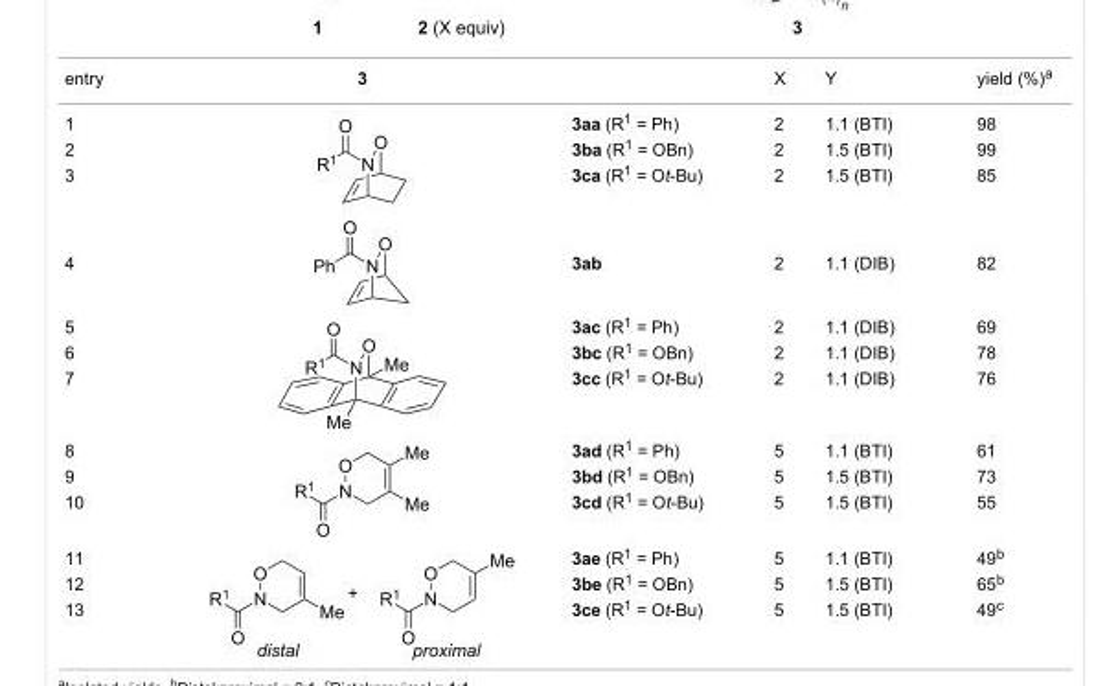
<table><tbody><tr><td>entry</td><td>3</td><td></td><td>X</td><td>Y</td><td>yield (%)<sup>a</sup></td></tr><tr><td>1</td><td rowspan="3"></td><td>3aa (R<sup>1</sup> = Ph)</td><td>2</td><td>1.1 (BTI)</td><td>98</td></tr><tr><td>2</td><td>3ba (R<sup>1</sup> = OBn)</td><td>2</td><td>1.5 (BTI)</td><td>99</td></tr><tr><td>3</td><td>3ca (R<sup>1</sup> = Ot-Bu)</td><td>2</td><td>1.5 (BTI)</td><td>85</td></tr><tr><td>4</td><td></td><td>3ab</td><td>2</td><td>1.1 (DIB)</td><td>82</td></tr><tr><td>5</td><td rowspan="3"></td><td>3ac (R<sup>1</sup> = Ph)</td><td>2</td><td>1.1 (DIB)</td><td>69</td></tr><tr><td>6</td><td>3bc (R<sup>1</sup> = OBn)</td><td>2</td><td>1.1 (DIB)</td><td>78</td></tr><tr><td>7</td><td>3cc (R<sup>1</sup> = Ot-Bu)</td><td>2</td><td>1.1 (DIB)</td><td>76</td></tr><tr><td>8</td><td rowspan="3"></td><td>3ad (R<sup>1</sup> = Ph)</td><td>5</td><td>1.1 (BTI)</td><td>61</td></tr><tr><td>9</td><td>3bd (R<sup>1</sup> = OBn)</td><td>5</td><td>1.5 (BTI)</td><td>73</td></tr><tr><td>10</td><td>3cd (R<sup>1</sup> = Ot-Bu)</td><td>5</td><td>1.5 (BTI)</td><td>55</td></tr><tr><td>11</td><td rowspan="3"></td><td>3ae (R<sup>1</sup> = Ph)</td><td>5</td><td>1.1 (BTI)</td><td>49<sup>b</sup></td></tr><tr><td>12</td><td>3be (R<sup>1</sup> = OBn)</td><td>5</td><td>1.5 (BTI)</td><td>65<sup>b</sup></td></tr><tr><td>13</td><td>3ce (R<sup>1</sup> = Ot-Bu)</td><td>5</td><td>1.5 (BTI)</td><td>49<sup>c</sup></td></tr></tbody></table>